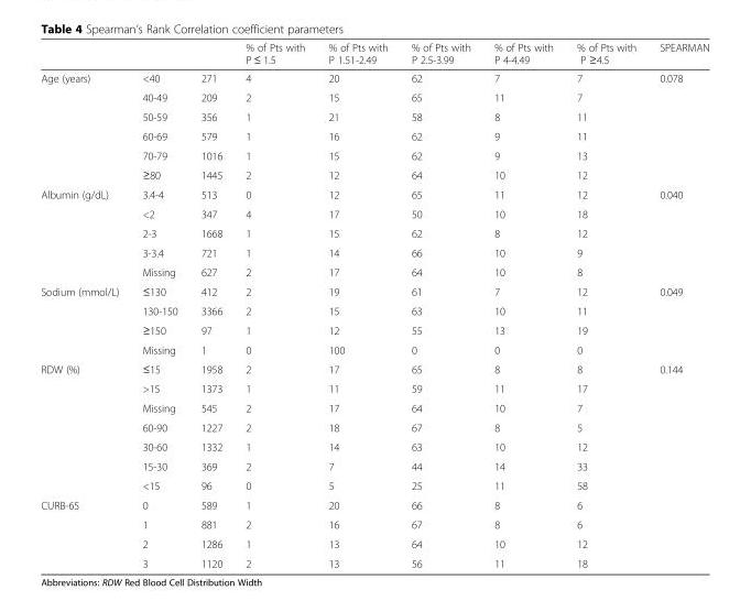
<table><thead><tr><td></td><td></td><td></td><td>% of Pts with P ≤ 1.5</td><td>% of Pts with P 1.51-2.49</td><td>% of Pts with P 2.5-3.99</td><td>% of Pts with P 4-4.49</td><td>% of Pts with P ≥4.5</td><td>SPEARMAN</td></tr></thead><tbody><tr><td rowspan="6">Age (years)</td><td>&lt;40</td><td>271</td><td>4</td><td>20</td><td>62</td><td>7</td><td>7</td><td>0.078</td></tr><tr><td>40-49</td><td>209</td><td>2</td><td>15</td><td>65</td><td>11</td><td>7</td><td></td></tr><tr><td>50-59</td><td>356</td><td>1</td><td>21</td><td>58</td><td>8</td><td>11</td><td></td></tr><tr><td>60-69</td><td>579</td><td>1</td><td>16</td><td>62</td><td>9</td><td>11</td><td></td></tr><tr><td>70-79</td><td>1016</td><td>1</td><td>15</td><td>62</td><td>9</td><td>13</td><td></td></tr><tr><td>≥80</td><td>1445</td><td>2</td><td>12</td><td>64</td><td>10</td><td>12</td><td></td></tr><tr><td rowspan="5">Albumin (g/dL)</td><td>3.4-4</td><td>513</td><td>0</td><td>12</td><td>65</td><td>11</td><td>12</td><td>0.040</td></tr><tr><td>&lt;2</td><td>347</td><td>4</td><td>17</td><td>50</td><td>10</td><td>18</td><td></td></tr><tr><td>2-3</td><td>1668</td><td>1</td><td>15</td><td>62</td><td>8</td><td>12</td><td></td></tr><tr><td>3-3.4</td><td>721</td><td>1</td><td>14</td><td>66</td><td>10</td><td>9</td><td></td></tr><tr><td>Missing</td><td>627</td><td>2</td><td>17</td><td>64</td><td>10</td><td>8</td><td></td></tr><tr><td rowspan="4">Sodium (mmol/L)</td><td>≤130</td><td>412</td><td>2</td><td>19</td><td>61</td><td>7</td><td>12</td><td>0.049</td></tr><tr><td>130-150</td><td>3366</td><td>2</td><td>15</td><td>63</td><td>10</td><td>11</td><td></td></tr><tr><td>≥150</td><td>97</td><td>1</td><td>12</td><td>55</td><td>13</td><td>19</td><td></td></tr><tr><td>Missing</td><td>1</td><td>0</td><td>100</td><td>0</td><td>0</td><td>0</td><td></td></tr><tr><td rowspan="7">RDW (%)</td><td>≤15</td><td>1958</td><td>2</td><td>17</td><td>65</td><td>8</td><td>8</td><td>0.144</td></tr><tr><td>&gt;15</td><td>1373</td><td>1</td><td>11</td><td>59</td><td>11</td><td>17</td><td></td></tr><tr><td>Missing</td><td>545</td><td>2</td><td>17</td><td>64</td><td>10</td><td>7</td><td></td></tr><tr><td>60-90</td><td>1227</td><td>2</td><td>18</td><td>67</td><td>8</td><td>5</td><td></td></tr><tr><td>30-60</td><td>1332</td><td>1</td><td>14</td><td>63</td><td>10</td><td>12</td><td></td></tr><tr><td>15-30</td><td>369</td><td>2</td><td>7</td><td>44</td><td>14</td><td>33</td><td></td></tr><tr><td>&lt;15</td><td>96</td><td>0</td><td>5</td><td>25</td><td>11</td><td>58</td><td></td></tr><tr><td rowspan="4">CURB-65</td><td>0</td><td>589</td><td>1</td><td>20</td><td>66</td><td>8</td><td>6</td><td></td></tr><tr><td>1</td><td>881</td><td>2</td><td>16</td><td>67</td><td>8</td><td>6</td><td></td></tr><tr><td>2</td><td>1286</td><td>1</td><td>13</td><td>64</td><td>10</td><td>12</td><td></td></tr><tr><td>3</td><td>1120</td><td>2</td><td>13</td><td>56</td><td>11</td><td>18</td><td></td></tr></tbody></table>